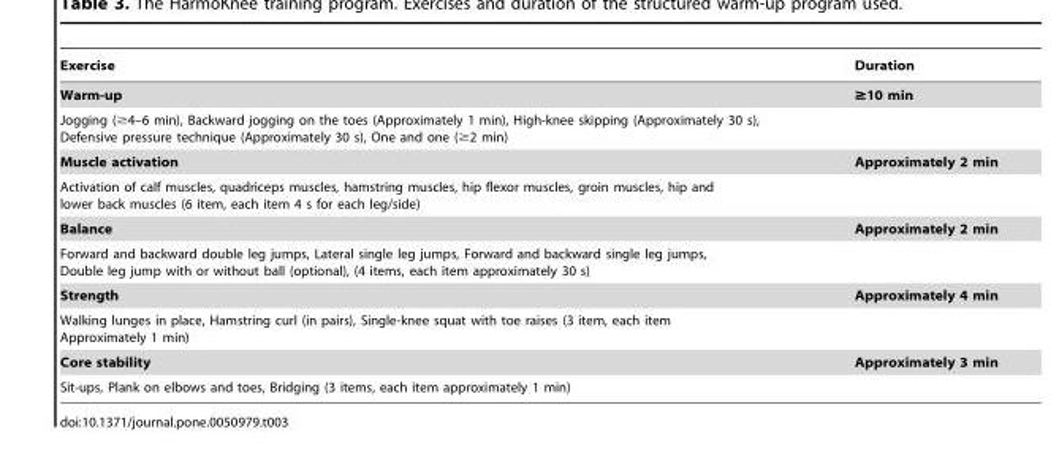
<table><thead><tr><td>Exercise</td><td>Duration</td></tr></thead><tbody><tr><td>Warm-up</td><td>≥10 min</td></tr><tr><td colspan="2">Jogging (≥4–6 min), Backward jogging on the toes (Approximately 1 min), High-knee skipping (Approximately 30 s), Defensive pressure technique (Approximately 30 s), One and one (≥2 min)</td></tr><tr><td>Muscle activation</td><td>Approximately 2 min</td></tr><tr><td colspan="2">Activation of calf muscles, quadriceps muscles, hamstring muscles, hip flexor muscles, groin muscles, hip and lower back muscles (6 item, each item 4 s for each leg/side)</td></tr><tr><td>Balance</td><td>Approximately 2 min</td></tr><tr><td colspan="2">Forward and backward double leg jumps, Lateral single leg jumps, Forward and backward single leg jumps, Double leg jump with or without ball (optional), (4 items, each item approximately 30 s)</td></tr><tr><td>Strength</td><td>Approximately 4 min</td></tr><tr><td colspan="2">Walking lunges in place, Hamstring curl (in pairs), Single-knee squat with toe raises (3 item, each item Approximately 1 min)</td></tr><tr><td>Core stability</td><td>Approximately 3 min</td></tr><tr><td>Sit-ups, Plank on elbows and toes, Bridging (3 items, each item approximately 1 min)</td><td></td></tr></tbody></table>